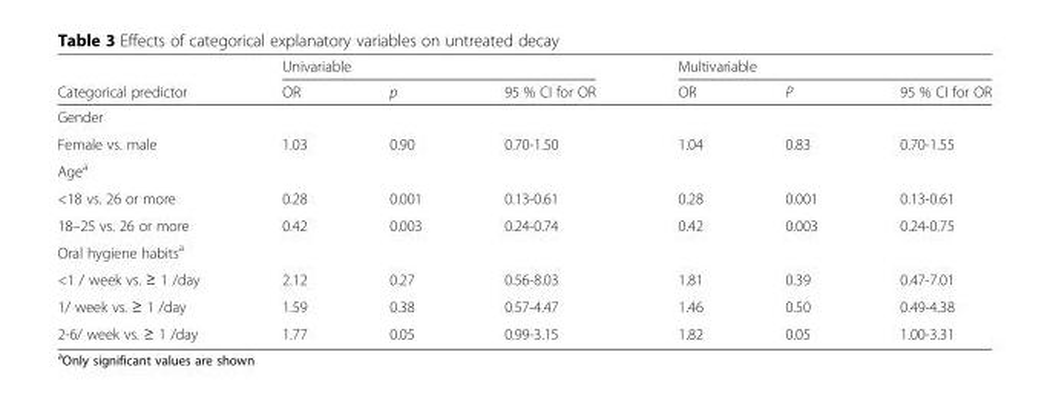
<table><thead><tr><td rowspan="2">Categorical predictor</td><td colspan="3">Univariable</td><td colspan="3">Multivariable</td></tr><tr><td>OR</td><td>p</td><td>95 % CI for OR</td><td>OR</td><td>P</td><td>95 % CI for OR</td></tr></thead><tbody><tr><td colspan="7">Gender</td></tr><tr><td>Female vs. male</td><td>1.03</td><td>0.90</td><td>0.70-1.50</td><td>1.04</td><td>0.83</td><td>0.70-1.55</td></tr><tr><td colspan="7">Age<sup>a</sup></td></tr><tr><td>&lt;18 vs. 26 or more</td><td>0.28</td><td>0.001</td><td>0.13-0.61</td><td>0.28</td><td>0.001</td><td>0.13-0.61</td></tr><tr><td>18–25 vs. 26 or more</td><td>0.42</td><td>0.003</td><td>0.24-0.74</td><td>0.42</td><td>0.003</td><td>0.24-0.75</td></tr><tr><td colspan="7">Oral hygiene habits<sup>a</sup></td></tr><tr><td>&lt;1 / week vs. ≥ 1 /day</td><td>2.12</td><td>0.27</td><td>0.56-8.03</td><td>1.81</td><td>0.39</td><td>0.47-7.01</td></tr><tr><td>1/ week vs. ≥ 1 /day</td><td>1.59</td><td>0.38</td><td>0.57-4.47</td><td>1.46</td><td>0.50</td><td>0.49-4.38</td></tr><tr><td>2-6/ week vs. ≥ 1 /day</td><td>1.77</td><td>0.05</td><td>0.99-3.15</td><td>1.82</td><td>0.05</td><td>1.00-3.31</td></tr></tbody></table>